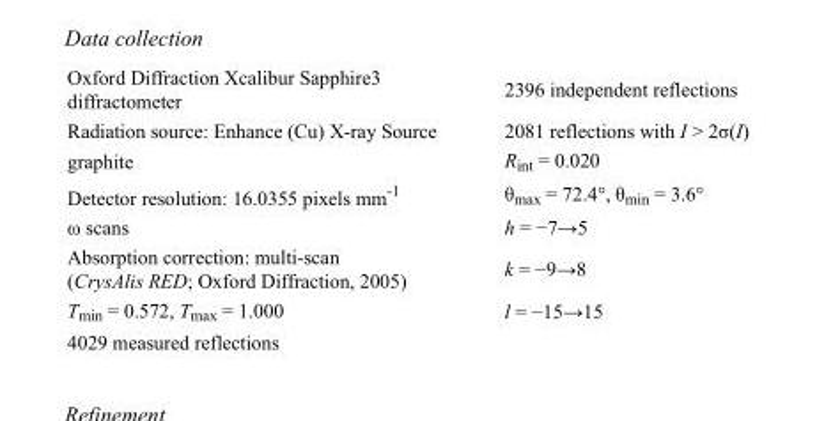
<table><tbody><tr><td>Oxford Diffraction Xcalibur Sapphire3 diffractometer</td><td>2396 independent reflections</td></tr><tr><td>Radiation source: Enhance (Cu) X-ray Source</td><td>2081 reflections with I &gt; 2σ(I)</td></tr><tr><td>graphite</td><td>R<sub>int</sub> = 0.020</td></tr><tr><td>Detector resolution: 16.0355 pixels mm<sup>-1</sup></td><td>θ<sub>max</sub> = 72.4°, θ<sub>min</sub> = 3.6°</td></tr><tr><td>ω scans</td><td>h = −7→5</td></tr><tr><td>Absorption correction: multi-scan (CrysAlis RED; Oxford Diffraction, 2005)</td><td>k = −9→8</td></tr><tr><td>T<sub>min</sub> = 0.572, T<sub>max</sub> = 1.000</td><td>l = −15→15</td></tr><tr><td>4029 measured reflections</td><td></td></tr></tbody></table>